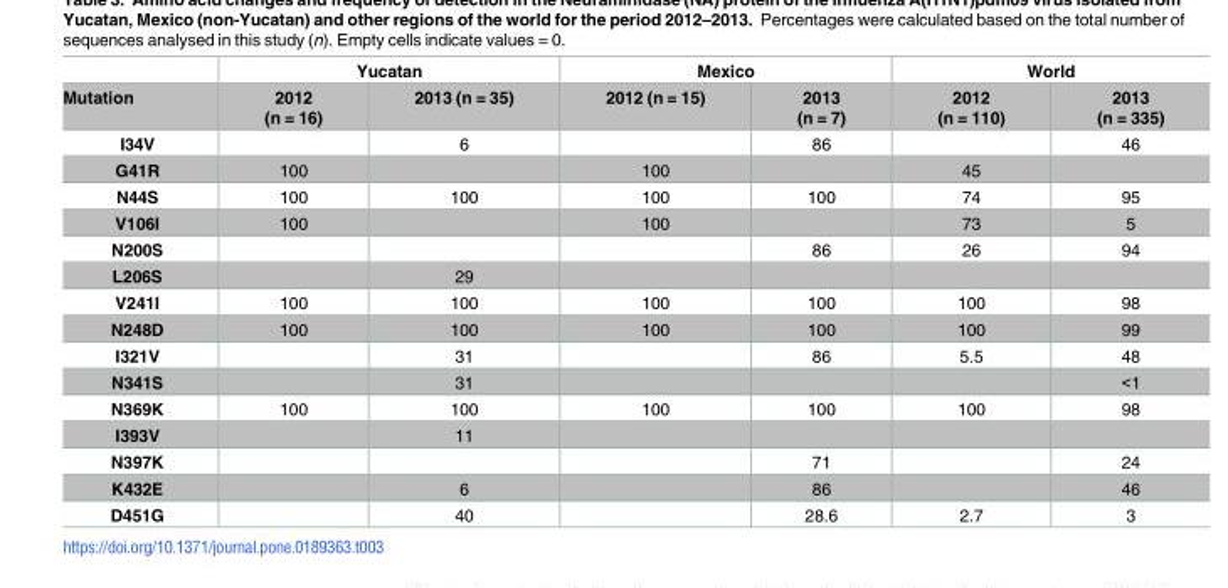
<table><thead><tr><td rowspan="2">Mutation</td><td colspan="2">Yucatan</td><td colspan="2">Mexico</td><td colspan="2">World</td></tr><tr><td>2012 (n = 16)</td><td>2013 (n = 35)</td><td>2012 (n = 15)</td><td>2013 (n = 7)</td><td>2012 (n = 110)</td><td>2013 (n = 335)</td></tr></thead><tbody><tr><td>I34V</td><td></td><td>6</td><td></td><td>86</td><td></td><td>46</td></tr><tr><td>G41R</td><td>100</td><td></td><td>100</td><td></td><td>45</td><td></td></tr><tr><td>N44S</td><td>100</td><td>100</td><td>100</td><td>100</td><td>74</td><td>95</td></tr><tr><td>V106I</td><td>100</td><td></td><td>100</td><td></td><td>73</td><td>5</td></tr><tr><td>N200S</td><td></td><td></td><td></td><td>86</td><td>26</td><td>94</td></tr><tr><td>L206S</td><td></td><td>29</td><td></td><td></td><td></td><td></td></tr><tr><td>V241I</td><td>100</td><td>100</td><td>100</td><td>100</td><td>100</td><td>98</td></tr><tr><td>N248D</td><td>100</td><td>100</td><td>100</td><td>100</td><td>100</td><td>99</td></tr><tr><td>I321V</td><td></td><td>31</td><td></td><td>86</td><td>5.5</td><td>48</td></tr><tr><td>N341S</td><td></td><td>31</td><td></td><td></td><td></td><td>&lt;1</td></tr><tr><td>N369K</td><td>100</td><td>100</td><td>100</td><td>100</td><td>100</td><td>98</td></tr><tr><td>I393V</td><td></td><td>11</td><td></td><td></td><td></td><td></td></tr><tr><td>N397K</td><td></td><td></td><td></td><td>71</td><td></td><td>24</td></tr><tr><td>K432E</td><td></td><td>6</td><td></td><td>86</td><td></td><td>46</td></tr><tr><td>D451G</td><td></td><td>40</td><td></td><td>28.6</td><td>2.7</td><td>3</td></tr></tbody></table>